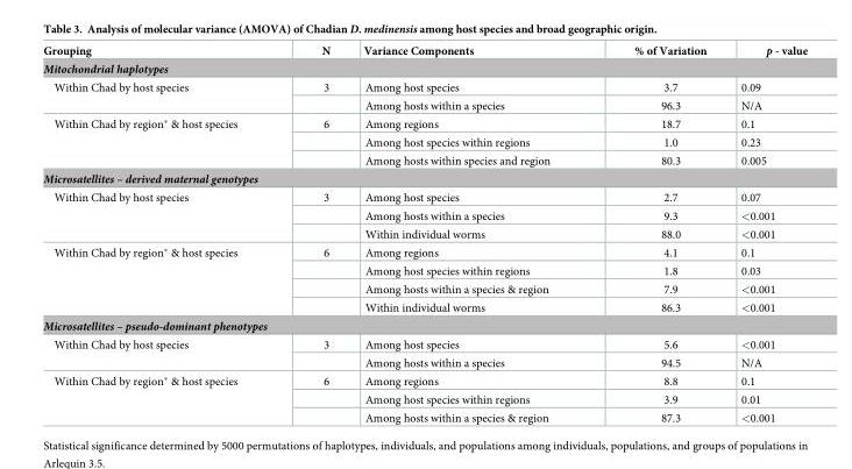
<table><thead><tr><td>Grouping</td><td>N</td><td>Variance Components</td><td>% of Variation</td><td>p - value</td></tr></thead><tbody><tr><td colspan="5">Mitochondrial haplotypes</td></tr><tr><td rowspan="2">Within Chad by host species</td><td>3</td><td>Among host species</td><td>3.7</td><td>0.09</td></tr><tr><td></td><td>Among hosts within a species</td><td>96.3</td><td>N/A</td></tr><tr><td rowspan="3">Within Chad by region* &amp; host species</td><td>6</td><td>Among regions</td><td>18.7</td><td>0.1</td></tr><tr><td></td><td>Among host species within regions</td><td>1.0</td><td>0.23</td></tr><tr><td></td><td>Among hosts within species and region</td><td>80.3</td><td>0.005</td></tr><tr><td colspan="5">Microsatellites – derived maternal genotypes</td></tr><tr><td rowspan="3">Within Chad by host species</td><td>3</td><td>Among host species</td><td>2.7</td><td>0.07</td></tr><tr><td></td><td>Among hosts within a species</td><td>9.3</td><td>&lt;0.001</td></tr><tr><td></td><td>Within individual worms</td><td>88.0</td><td>&lt;0.001</td></tr><tr><td rowspan="4">Within Chad by region* &amp; host species</td><td>6</td><td>Among regions</td><td>4.1</td><td>0.1</td></tr><tr><td></td><td>Among host species within regions</td><td>1.8</td><td>0.03</td></tr><tr><td></td><td>Among hosts within a species &amp; region</td><td>7.9</td><td>&lt;0.001</td></tr><tr><td></td><td>Within individual worms</td><td>86.3</td><td>&lt;0.001</td></tr><tr><td colspan="5">Microsatellites – pseudo-dominant phenotypes</td></tr><tr><td rowspan="2">Within Chad by host species</td><td>3</td><td>Among host species</td><td>5.6</td><td>&lt;0.001</td></tr><tr><td></td><td>Among hosts within a species</td><td>94.5</td><td>N/A</td></tr><tr><td rowspan="3">Within Chad by region* &amp; host species</td><td>6</td><td>Among regions</td><td>8.8</td><td>0.1</td></tr><tr><td></td><td>Among host species within regions</td><td>3.9</td><td>0.01</td></tr><tr><td></td><td>Among hosts within a species &amp; region</td><td>87.3</td><td>&lt;0.001</td></tr></tbody></table>